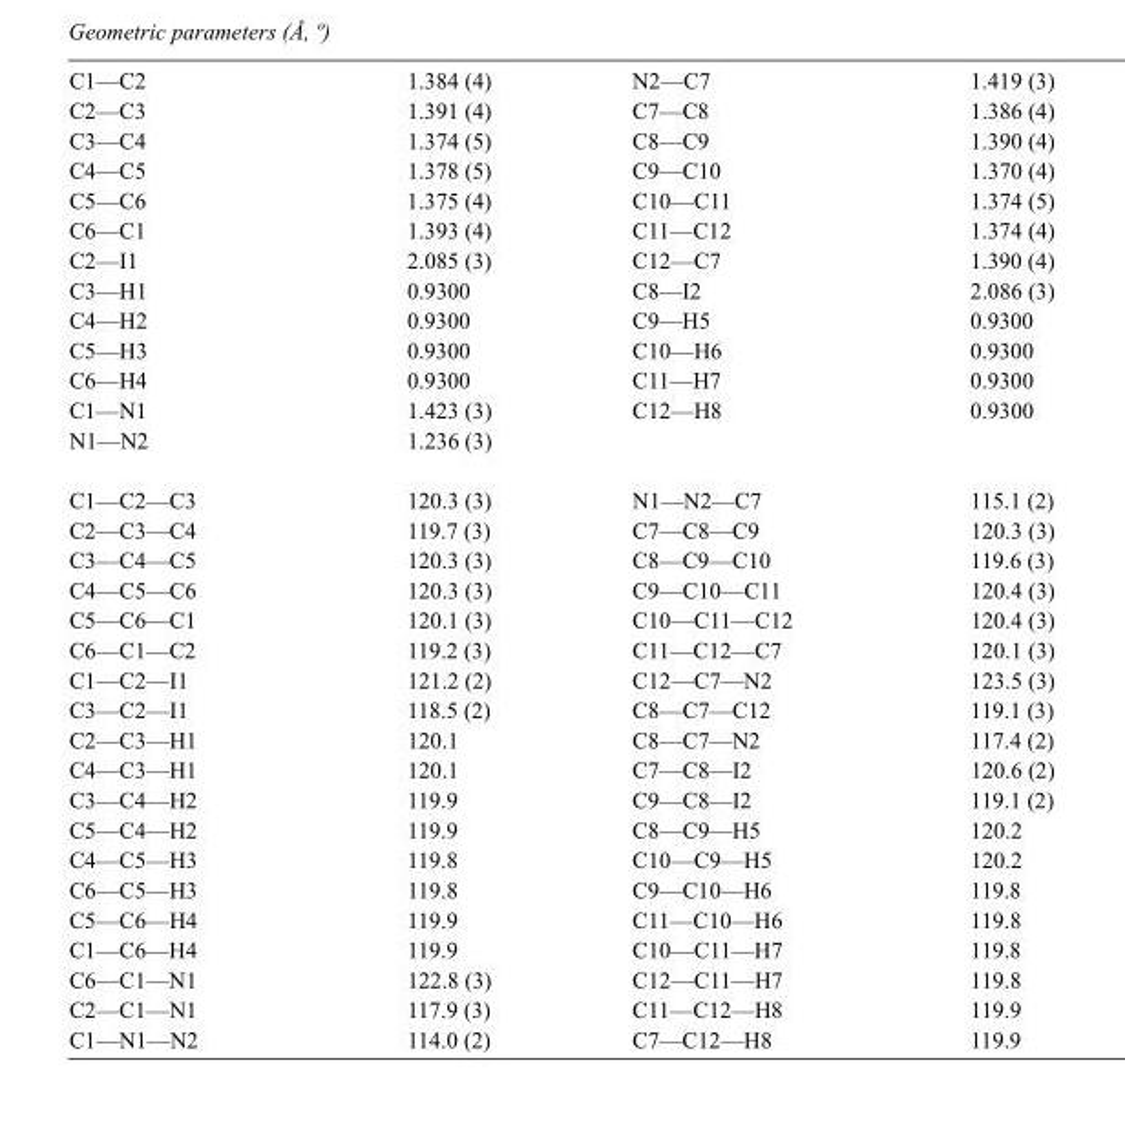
<table><tbody><tr><td>C1—C2</td><td>1.384 (4)</td><td>N2—C7</td><td>1.419 (3)</td></tr><tr><td>C2—C3</td><td>1.391 (4)</td><td>C7—C8</td><td>1.386 (4)</td></tr><tr><td>C3—C4</td><td>1.374 (5)</td><td>C8—C9</td><td>1.390 (4)</td></tr><tr><td>C4—C5</td><td>1.378 (5)</td><td>C9—C10</td><td>1.370 (4)</td></tr><tr><td>C5—C6</td><td>1.375 (4)</td><td>C10—C11</td><td>1.374 (5)</td></tr><tr><td>C6—C1</td><td>1.393 (4)</td><td>C11—C12</td><td>1.374 (4)</td></tr><tr><td>C2—I1</td><td>2.085 (3)</td><td>C12—C7</td><td>1.390 (4)</td></tr><tr><td>C3—H1</td><td>0.9300</td><td>C8—I2</td><td>2.086 (3)</td></tr><tr><td>C4—H2</td><td>0.9300</td><td>C9—H5</td><td>0.9300</td></tr><tr><td>C5—H3</td><td>0.9300</td><td>C10—H6</td><td>0.9300</td></tr><tr><td>C6—H4</td><td>0.9300</td><td>C11—H7</td><td>0.9300</td></tr><tr><td>C1—N1</td><td>1.423 (3)</td><td>C12—H8</td><td>0.9300</td></tr><tr><td>N1—N2</td><td>1.236 (3)</td><td></td><td></td></tr><tr><td>C1—C2—C3</td><td>120.3 (3)</td><td>N1—N2—C7</td><td>115.1 (2)</td></tr><tr><td>C2—C3—C4</td><td>119.7 (3)</td><td>C7—C8—C9</td><td>120.3 (3)</td></tr><tr><td>C3—C4—C5</td><td>120.3 (3)</td><td>C8—C9—C10</td><td>119.6 (3)</td></tr><tr><td>C4—C5—C6</td><td>120.3 (3)</td><td>C9—C10—C11</td><td>120.4 (3)</td></tr><tr><td>C5—C6—C1</td><td>120.1 (3)</td><td>C10—C11—C12</td><td>120.4 (3)</td></tr><tr><td>C6—C1—C2</td><td>119.2 (3)</td><td>C11—C12—C7</td><td>120.1 (3)</td></tr><tr><td>C1—C2—I1</td><td>121.2 (2)</td><td>C12—C7—N2</td><td>123.5 (3)</td></tr><tr><td>C3—C2—I1</td><td>118.5 (2)</td><td>C8—C7—C12</td><td>119.1 (3)</td></tr><tr><td>C2—C3—H1</td><td>120.1</td><td>C8—C7—N2</td><td>117.4 (2)</td></tr><tr><td>C4—C3—H1</td><td>120.1</td><td>C7—C8—I2</td><td>120.6 (2)</td></tr><tr><td>C3—C4—H2</td><td>119.9</td><td>C9—C8—I2</td><td>119.1 (2)</td></tr><tr><td>C5—C4—H2</td><td>119.9</td><td>C8—C9—H5</td><td>120.2</td></tr><tr><td>C4—C5—H3</td><td>119.8</td><td>C10—C9—H5</td><td>120.2</td></tr><tr><td>C6—C5—H3</td><td>119.8</td><td>C9—C10—H6</td><td>119.8</td></tr><tr><td>C5—C6—H4</td><td>119.9</td><td>C11—C10—H6</td><td>119.8</td></tr><tr><td>C1—C6—H4</td><td>119.9</td><td>C10—C11—H7</td><td>119.8</td></tr><tr><td>C6—C1—N1</td><td>122.8 (3)</td><td>C12—C11—H7</td><td>119.8</td></tr><tr><td>C2—C1—N1</td><td>117.9 (3)</td><td>C11—C12—H8</td><td>119.9</td></tr><tr><td>C1—N1—N2</td><td>114.0 (2)</td><td>C7—C12—H8</td><td>119.9</td></tr></tbody></table>